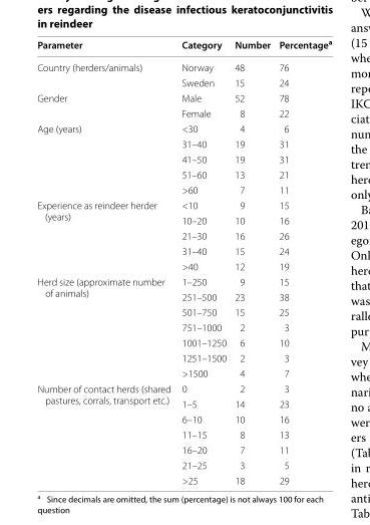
<table><thead><tr><td>Parameter</td><td>Category</td><td>Number</td><td>Percentage<sup>a</sup></td></tr></thead><tbody><tr><td rowspan="2">Country (herders/animals)</td><td>Norway</td><td>48</td><td>76</td></tr><tr><td>Sweden</td><td>15</td><td>24</td></tr><tr><td rowspan="2">Gender</td><td>Male</td><td>52</td><td>78</td></tr><tr><td>Female</td><td>8</td><td>22</td></tr><tr><td rowspan="5">Age (years)</td><td>&lt;30</td><td>4</td><td>6</td></tr><tr><td>31–40</td><td>19</td><td>31</td></tr><tr><td>41–50</td><td>19</td><td>31</td></tr><tr><td>51–60</td><td>13</td><td>21</td></tr><tr><td>&gt;60</td><td>7</td><td>11</td></tr><tr><td rowspan="5">Experience as reindeer herder (years)</td><td>&lt;10</td><td>9</td><td>15</td></tr><tr><td>10–20</td><td>10</td><td>16</td></tr><tr><td>21–30</td><td>16</td><td>26</td></tr><tr><td>31–40</td><td>15</td><td>24</td></tr><tr><td>&gt;40</td><td>12</td><td>19</td></tr><tr><td rowspan="7">Herd size (approximate number of animals)</td><td>1–250</td><td>9</td><td>15</td></tr><tr><td>251–500</td><td>23</td><td>38</td></tr><tr><td>501–750</td><td>15</td><td>25</td></tr><tr><td>751–1000</td><td>2</td><td>3</td></tr><tr><td>1001–1250</td><td>6</td><td>10</td></tr><tr><td>1251–1500</td><td>2</td><td>3</td></tr><tr><td>&gt;1500</td><td>4</td><td>7</td></tr><tr><td rowspan="7">Number of contact herds (shared pastures, corrals, transport etc.)</td><td>0</td><td>2</td><td>3</td></tr><tr><td>1–5</td><td>14</td><td>23</td></tr><tr><td>6–10</td><td>10</td><td>16</td></tr><tr><td>11–15</td><td>8</td><td>13</td></tr><tr><td>16–20</td><td>7</td><td>11</td></tr><tr><td>21–25</td><td>3</td><td>5</td></tr><tr><td>&gt;25</td><td>18</td><td>29</td></tr></tbody></table>